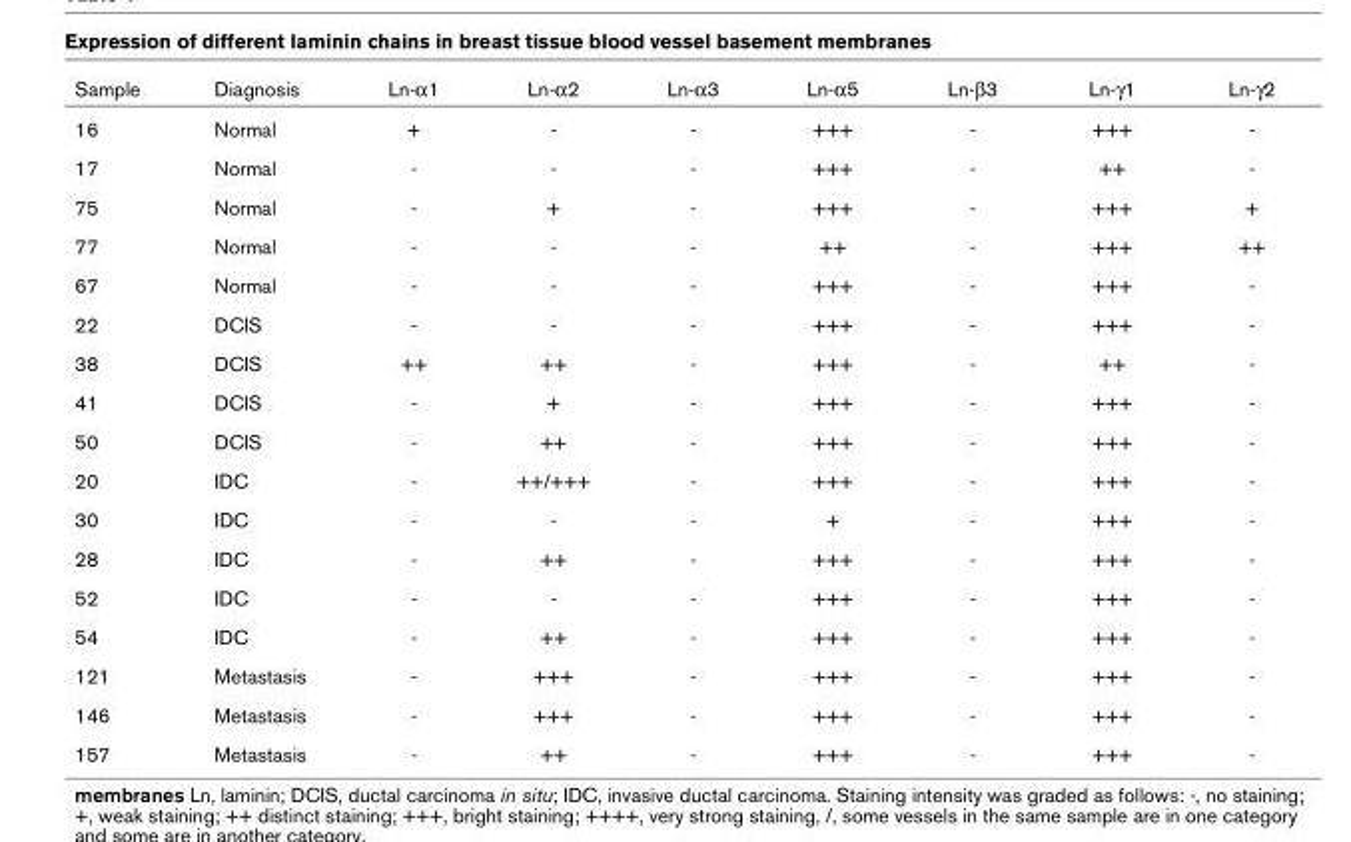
<table><thead><tr><td>Sample</td><td>Diagnosis</td><td>Ln-α1</td><td>Ln-α2</td><td>Ln-α3</td><td>Ln-α5</td><td>Ln-β3</td><td>Ln-γ1</td><td>Ln-γ2</td></tr></thead><tbody><tr><td>16</td><td>Normal</td><td>+</td><td>-</td><td>-</td><td>+++</td><td>-</td><td>+++</td><td>-</td></tr><tr><td>17</td><td>Normal</td><td>-</td><td>-</td><td>-</td><td>+++</td><td>-</td><td>++</td><td>-</td></tr><tr><td>75</td><td>Normal</td><td>-</td><td>+</td><td>-</td><td>+++</td><td>-</td><td>+++</td><td>+</td></tr><tr><td>77</td><td>Normal</td><td>-</td><td>-</td><td>-</td><td>++</td><td>-</td><td>+++</td><td>++</td></tr><tr><td>67</td><td>Normal</td><td>-</td><td>-</td><td>-</td><td>+++</td><td>-</td><td>+++</td><td>-</td></tr><tr><td>22</td><td>DCIS</td><td>-</td><td>-</td><td>-</td><td>+++</td><td>-</td><td>+++</td><td>-</td></tr><tr><td>38</td><td>DCIS</td><td>++</td><td>++</td><td>-</td><td>+++</td><td>-</td><td>++</td><td>-</td></tr><tr><td>41</td><td>DCIS</td><td>-</td><td>+</td><td>-</td><td>+++</td><td>-</td><td>+++</td><td>-</td></tr><tr><td>50</td><td>DCIS</td><td>-</td><td>++</td><td>-</td><td>+++</td><td>-</td><td>+++</td><td>-</td></tr><tr><td>20</td><td>IDC</td><td>-</td><td>++/+++</td><td>-</td><td>+++</td><td>-</td><td>+++</td><td>-</td></tr><tr><td>30</td><td>IDC</td><td>-</td><td>-</td><td>-</td><td>+</td><td>-</td><td>+++</td><td>-</td></tr><tr><td>28</td><td>IDC</td><td>-</td><td>++</td><td>-</td><td>+++</td><td>-</td><td>+++</td><td>-</td></tr><tr><td>52</td><td>IDC</td><td>-</td><td>-</td><td>-</td><td>+++</td><td>-</td><td>+++</td><td>-</td></tr><tr><td>54</td><td>IDC</td><td>-</td><td>++</td><td>-</td><td>+++</td><td>-</td><td>+++</td><td>-</td></tr><tr><td>121</td><td>Metastasis</td><td>-</td><td>+++</td><td>-</td><td>+++</td><td>-</td><td>+++</td><td>-</td></tr><tr><td>146</td><td>Metastasis</td><td>-</td><td>+++</td><td>-</td><td>+++</td><td>-</td><td>+++</td><td>-</td></tr><tr><td>157</td><td>Metastasis</td><td>-</td><td>++</td><td>-</td><td>+++</td><td>-</td><td>+++</td><td>-</td></tr></tbody></table>